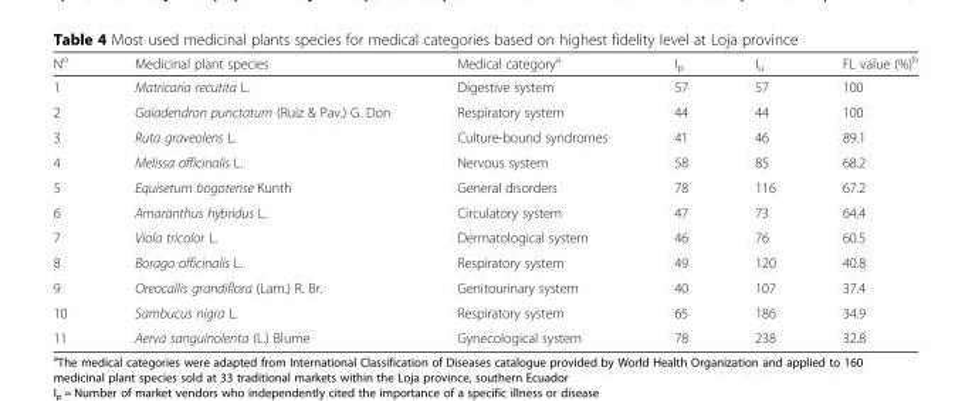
<table><thead><tr><td>N<sup>o</sup></td><td>Medicinal plant species</td><td>Medical category<sup>a</sup></td><td>I<sub>p</sub></td><td>I<sub>u</sub></td><td>FL value (%)<sup>b</sup></td></tr></thead><tbody><tr><td>1</td><td>Matricaria recutita L.</td><td>Digestive system</td><td>57</td><td>57</td><td>100</td></tr><tr><td>2</td><td>Gaiadendron punctatum (Ruiz &amp; Pav.) G. Don</td><td>Respiratory system</td><td>44</td><td>44</td><td>100</td></tr><tr><td>3</td><td>Ruta graveolens L.</td><td>Culture-bound syndromes</td><td>41</td><td>46</td><td>89.1</td></tr><tr><td>4</td><td>Melissa officinalis L.</td><td>Nervous system</td><td>58</td><td>85</td><td>68.2</td></tr><tr><td>5</td><td>Equisetum bogotense Kunth</td><td>General disorders</td><td>78</td><td>116</td><td>67.2</td></tr><tr><td>6</td><td>Amaranthus hybridus L.</td><td>Circulatory system</td><td>47</td><td>73</td><td>64.4</td></tr><tr><td>7</td><td>Viola tricolor L.</td><td>Dermatological system</td><td>46</td><td>76</td><td>60.5</td></tr><tr><td>8</td><td>Borago officinalis L.</td><td>Respiratory system</td><td>49</td><td>120</td><td>40.8</td></tr><tr><td>9</td><td>Oreocallis grandiflora (Lam.) R. Br.</td><td>Genitourinary system</td><td>40</td><td>107</td><td>37.4</td></tr><tr><td>10</td><td>Sambucus nigra L.</td><td>Respiratory system</td><td>65</td><td>186</td><td>34.9</td></tr><tr><td>11</td><td>Aerva sanguinolenta (L.) Blume</td><td>Gynecological system</td><td>78</td><td>238</td><td>32.8</td></tr></tbody></table>